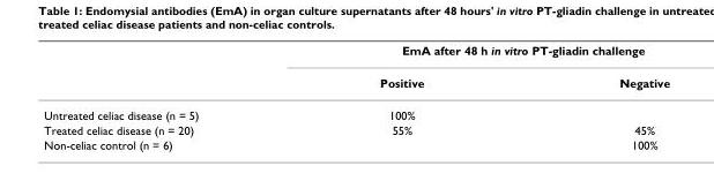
<table><thead><tr><td rowspan="2"></td><td colspan="2">EmA after 48 h in vitro PT-gliadin challenge</td></tr><tr><td>Positive</td><td>Negative</td></tr></thead><tbody><tr><td>Untreated celiac disease (n = 5)</td><td>100%</td><td></td></tr><tr><td>Treated celiac disease (n = 20)</td><td>55%</td><td>45%</td></tr><tr><td>Non-celiac control (n = 6)</td><td></td><td>100%</td></tr></tbody></table>